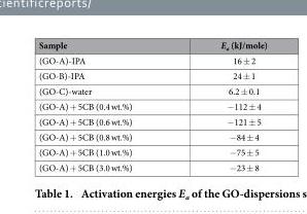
<table><thead><tr><td>Sample</td><td>E<sub>a</sub> (kJ/mole)</td></tr></thead><tbody><tr><td>(GO-A)-IPA</td><td>16 ± 2</td></tr><tr><td>(GO-B)-IPA</td><td>24 ± 1</td></tr><tr><td>(GO-C)-water</td><td>6.2 ± 0.1</td></tr><tr><td>(GO-A) + 5CB (0.4 wt.%)</td><td>− 112 ± 4</td></tr><tr><td>(GO-A) + 5CB (0.6 wt.%)</td><td>− 121 ± 5</td></tr><tr><td>(GO-A) + 5CB (0.8 wt.%)</td><td>− 84 ± 4</td></tr><tr><td>(GO-A) + 5CB (1.0 wt.%)</td><td>− 75 ± 5</td></tr><tr><td>(GO-A) + 5CB (3.0 wt.%)</td><td>− 23 ± 8</td></tr></tbody></table>